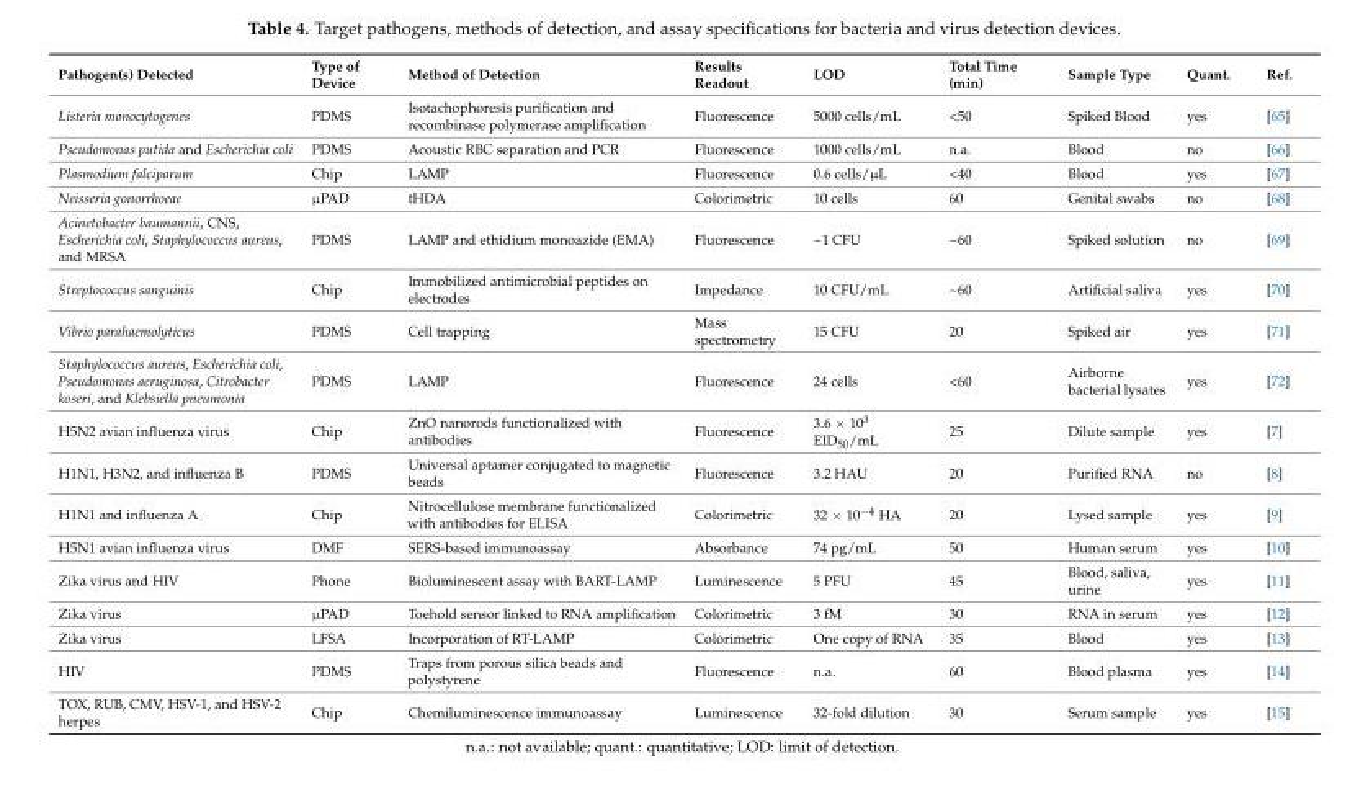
<table><thead><tr><td>Pathogen(s) Detected</td><td>Type of Device</td><td>Method of Detection</td><td>Results Readout</td><td>LOD</td><td>Total Time (min)</td><td>Sample Type</td><td>Quant.</td><td>Ref.</td></tr></thead><tbody><tr><td>Listeria monocytogenes</td><td>PDMS</td><td>Isotachophoresis purification and recombinase polymerase amplification</td><td>Fluorescence</td><td>5000 cells/mL</td><td>&lt;50</td><td>Spiked Blood</td><td>yes</td><td>[65]</td></tr><tr><td>Pseudomonas putida and Escherichia coli</td><td>PDMS</td><td>Acoustic RBC separation and PCR</td><td>Fluorescence</td><td>1000 cells/mL</td><td>n.a.</td><td>Blood</td><td>no</td><td>[66]</td></tr><tr><td>Plasmodium falciparum</td><td>Chip</td><td>LAMP</td><td>Fluorescence</td><td>0.6 cells/µL</td><td>&lt;40</td><td>Blood</td><td>yes</td><td>[67]</td></tr><tr><td>Neisseria gonorrhoeae</td><td>µPAD</td><td>tHDA</td><td>Colorimetric</td><td>10 cells</td><td>60</td><td>Genital swabs</td><td>no</td><td>[68]</td></tr><tr><td>Acinetobacter baumannii, CNS, Escherichia coli, Staphylococcus aureus, and MRSA</td><td>PDMS</td><td>LAMP and ethidium monoazide (EMA)</td><td>Fluorescence</td><td>~1 CFU</td><td>~60</td><td>Spiked solution</td><td>no</td><td>[69]</td></tr><tr><td>Streptococcus sanguinis</td><td>Chip</td><td>Immobilized antimicrobial peptides on electrodes</td><td>Impedance</td><td>10 CFU/mL</td><td>~60</td><td>Artificial saliva</td><td>yes</td><td>[70]</td></tr><tr><td>Vibrio parahaemolyticus</td><td>PDMS</td><td>Cell trapping</td><td>Mass spectrometry</td><td>15 CFU</td><td>20</td><td>Spiked air</td><td>yes</td><td>[71]</td></tr><tr><td>Staphylococcus aureus, Escherichia coli, Pseudomonas aeruginosa, Citrobacter koseri, and Klebsiella pneumonia</td><td>PDMS</td><td>LAMP</td><td>Fluorescence</td><td>24 cells</td><td>&lt;60</td><td>Airborne bacterial lysates</td><td>yes</td><td>[72]</td></tr><tr><td>H5N2 avian influenza virus</td><td>Chip</td><td>ZnO nanorods functionalized with antibodies</td><td>Fluorescence</td><td>3.6 × 10<sup>3</sup> EID<sub>50</sub>/mL</td><td>25</td><td>Dilute sample</td><td>yes</td><td>[7]</td></tr><tr><td>H1N1, H3N2, and influenza B</td><td>PDMS</td><td>Universal aptamer conjugated to magnetic beads</td><td>Fluorescence</td><td>3.2 HAU</td><td>20</td><td>Purified RNA</td><td>no</td><td>[8]</td></tr><tr><td>H1N1 and influenza A</td><td>Chip</td><td>Nitrocellulose membrane functionalized with antibodies for ELISA</td><td>Colorimetric</td><td>32 × 10<sup>−4</sup> HA</td><td>20</td><td>Lysed sample</td><td>yes</td><td>[9]</td></tr><tr><td>H5N1 avian influenza virus</td><td>DMF</td><td>SERS-based immunoassay</td><td>Absorbance</td><td>74 pg/mL</td><td>50</td><td>Human serum</td><td>yes</td><td>[10]</td></tr><tr><td>Zika virus and HIV</td><td>Phone</td><td>Bioluminescent assay with BART-LAMP</td><td>Luminescence</td><td>5 PFU</td><td>45</td><td>Blood, saliva, urine</td><td>yes</td><td>[11]</td></tr><tr><td>Zika virus</td><td>µPAD</td><td>Toehold sensor linked to RNA amplification</td><td>Colorimetric</td><td>3 fM</td><td>30</td><td>RNA in serum</td><td>yes</td><td>[12]</td></tr><tr><td>Zika virus</td><td>LFSA</td><td>Incorporation of RT-LAMP</td><td>Colorimetric</td><td>One copy of RNA</td><td>35</td><td>Blood</td><td>yes</td><td>[13]</td></tr><tr><td>HIV</td><td>PDMS</td><td>Traps from porous silica beads and polystyrene</td><td>Fluorescence</td><td>n.a.</td><td>60</td><td>Blood plasma</td><td>yes</td><td>[14]</td></tr><tr><td>TOX, RUB, CMV, HSV-1, and HSV-2 herpes</td><td>Chip</td><td>Chemiluminescence immunoassay</td><td>Luminescence</td><td>32-fold dilution</td><td>30</td><td>Serum sample</td><td>yes</td><td>[15]</td></tr></tbody></table>